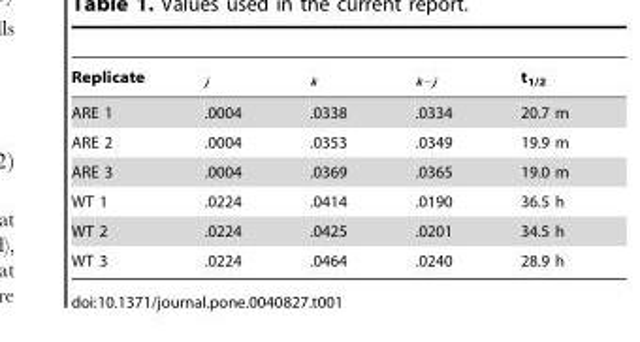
<table><thead><tr><td>Replicate</td><td><sub>j</sub></td><td><sub>k</sub></td><td><sub>k−j</sub></td><td>t<sub>1/2</sub></td></tr></thead><tbody><tr><td>ARE 1</td><td>.0004</td><td>.0338</td><td>.0334</td><td>20.7 m</td></tr><tr><td>ARE 2</td><td>.0004</td><td>.0353</td><td>.0349</td><td>19.9 m</td></tr><tr><td>ARE 3</td><td>.0004</td><td>.0369</td><td>.0365</td><td>19.0 m</td></tr><tr><td>WT 1</td><td>.0224</td><td>.0414</td><td>.0190</td><td>36.5 h</td></tr><tr><td>WT 2</td><td>.0224</td><td>.0425</td><td>.0201</td><td>34.5 h</td></tr><tr><td>WT 3</td><td>.0224</td><td>.0464</td><td>.0240</td><td>28.9 h</td></tr></tbody></table>